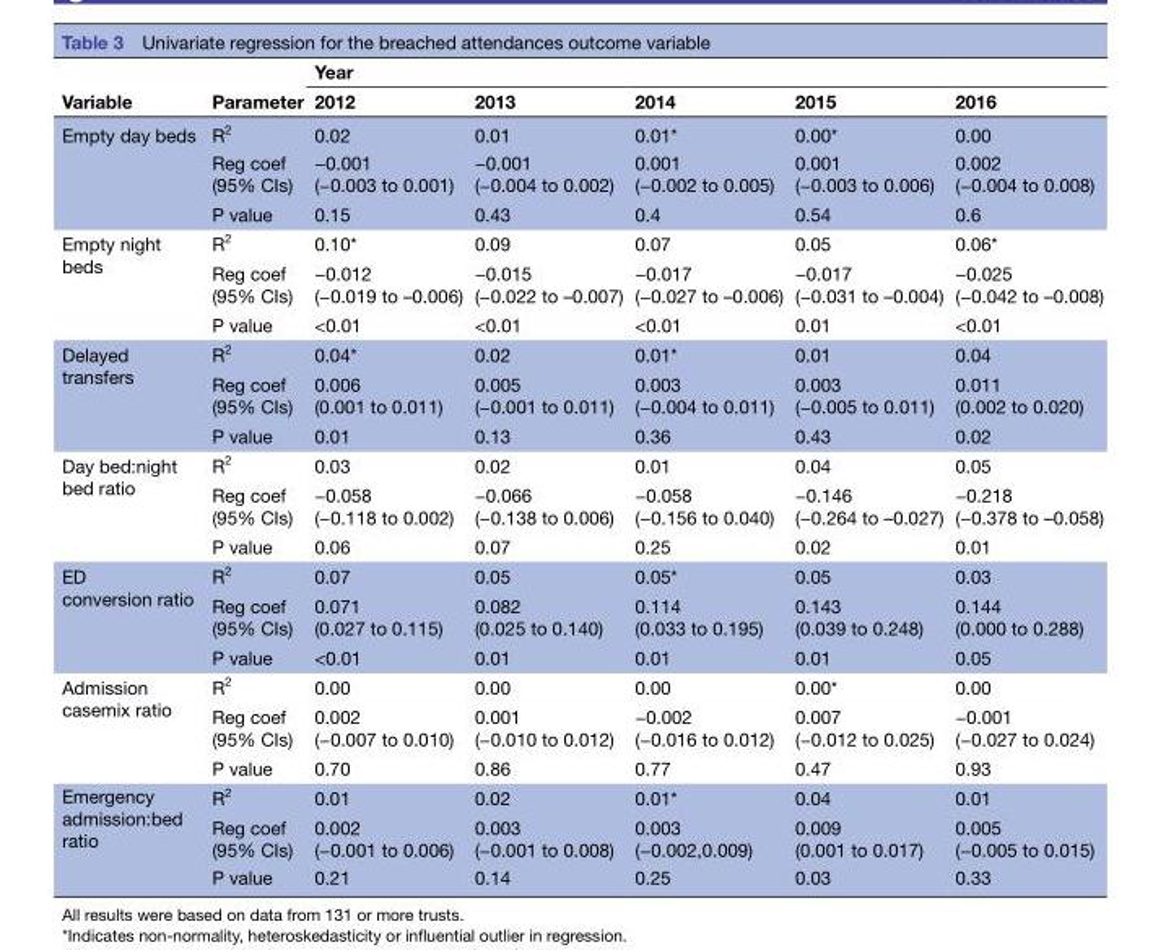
<table><thead><tr><td rowspan="2">Variable</td><td rowspan="2">Parameter</td><td colspan="5">Year</td></tr><tr><td>2012</td><td>2013</td><td>2014</td><td>2015</td><td>2016</td></tr></thead><tbody><tr><td rowspan="3">Empty day beds</td><td>R<sup>2</sup></td><td>0.02</td><td>0.01</td><td>0.01*</td><td>0.00*</td><td>0.00</td></tr><tr><td>Reg coef (95% CIs)</td><td>−0.001 (−0.003 to 0.001)</td><td>−0.001 (−0.004 to 0.002)</td><td>0.001 (−0.002 to 0.005)</td><td>0.001 (−0.003 to 0.006)</td><td>0.002 (−0.004 to 0.008)</td></tr><tr><td>P value</td><td>0.15</td><td>0.43</td><td>0.4</td><td>0.54</td><td>0.6</td></tr><tr><td rowspan="3">Empty night beds</td><td>R<sup>2</sup></td><td>0.10*</td><td>0.09</td><td>0.07</td><td>0.05</td><td>0.06*</td></tr><tr><td>Reg coef (95% CIs)</td><td>−0.012 (−0.019 to –0.006)</td><td>−0.015 (−0.022 to –0.007)</td><td>−0.017 (−0.027 to –0.006)</td><td>−0.017 (−0.031 to –0.004)</td><td>−0.025 (−0.042 to –0.008)</td></tr><tr><td>P value</td><td>&lt;0.01</td><td>&lt;0.01</td><td>&lt;0.01</td><td>0.01</td><td>&lt;0.01</td></tr><tr><td rowspan="3">Delayed transfers</td><td>R<sup>2</sup></td><td>0.04*</td><td>0.02</td><td>0.01*</td><td>0.01</td><td>0.04</td></tr><tr><td>Reg coef (95% CIs)</td><td>0.006 (0.001 to 0.011)</td><td>0.005 (−0.001 to 0.011)</td><td>0.003 (−0.004 to 0.011)</td><td>0.003 (−0.005 to 0.011)</td><td>0.011 (0.002 to 0.020)</td></tr><tr><td>P value</td><td>0.01</td><td>0.13</td><td>0.36</td><td>0.43</td><td>0.02</td></tr><tr><td rowspan="3">Day bed:night bed ratio</td><td>R<sup>2</sup></td><td>0.03</td><td>0.02</td><td>0.01</td><td>0.04</td><td>0.05</td></tr><tr><td>Reg coef (95% CIs)</td><td>−0.058 (−0.118 to 0.002)</td><td>−0.066 (−0.138 to 0.006)</td><td>−0.058 (−0.156 to 0.040)</td><td>−0.146 (−0.264 to –0.027)</td><td>−0.218 (−0.378 to –0.058)</td></tr><tr><td>P value</td><td>0.06</td><td>0.07</td><td>0.25</td><td>0.02</td><td>0.01</td></tr><tr><td rowspan="3">ED conversion ratio</td><td>R<sup>2</sup></td><td>0.07</td><td>0.05</td><td>0.05*</td><td>0.05</td><td>0.03</td></tr><tr><td>Reg coef (95% CIs)</td><td>0.071 (0.027 to 0.115)</td><td>0.082 (0.025 to 0.140)</td><td>0.114 (0.033 to 0.195)</td><td>0.143 (0.039 to 0.248)</td><td>0.144 (0.000 to 0.288)</td></tr><tr><td>P value</td><td>&lt;0.01</td><td>0.01</td><td>0.01</td><td>0.01</td><td>0.05</td></tr><tr><td rowspan="3">Admission casemix ratio</td><td>R<sup>2</sup></td><td>0.00</td><td>0.00</td><td>0.00</td><td>0.00*</td><td>0.00</td></tr><tr><td>Reg coef (95% CIs)</td><td>0.002 (−0.007 to 0.010)</td><td>0.001 (−0.010 to 0.012)</td><td>−0.002 (−0.016 to 0.012)</td><td>0.007 (−0.012 to 0.025)</td><td>−0.001 (−0.027 to 0.024)</td></tr><tr><td>P value</td><td>0.70</td><td>0.86</td><td>0.77</td><td>0.47</td><td>0.93</td></tr><tr><td rowspan="3">Emergency admission:bed ratio</td><td>R<sup>2</sup></td><td>0.01</td><td>0.02</td><td>0.01*</td><td>0.04</td><td>0.01</td></tr><tr><td>Reg coef (95% CIs)</td><td>0.002 (−0.001 to 0.006)</td><td>0.003 (−0.001 to 0.008)</td><td>0.003 (−0.002,0.009)</td><td>0.009 (0.001 to 0.017)</td><td>0.005 (−0.005 to 0.015)</td></tr><tr><td>P value</td><td>0.21</td><td>0.14</td><td>0.25</td><td>0.03</td><td>0.33</td></tr></tbody></table>